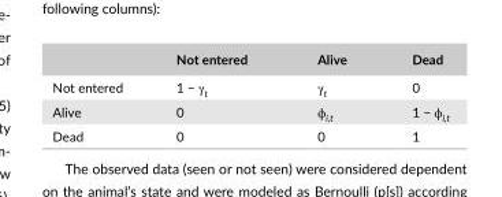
<table><thead><tr><td></td><td>Not entered</td><td>Alive</td><td>Dead</td></tr></thead><tbody><tr><td>Not entered</td><td>1 − γ<sub>t</sub></td><td>γ<sub>t</sub></td><td>0</td></tr><tr><td>Alive</td><td>0</td><td>ϕ<sub>i,t</sub></td><td>1 − ϕ<sub>i,t</sub></td></tr><tr><td>Dead</td><td>0</td><td>0</td><td>1</td></tr></tbody></table>